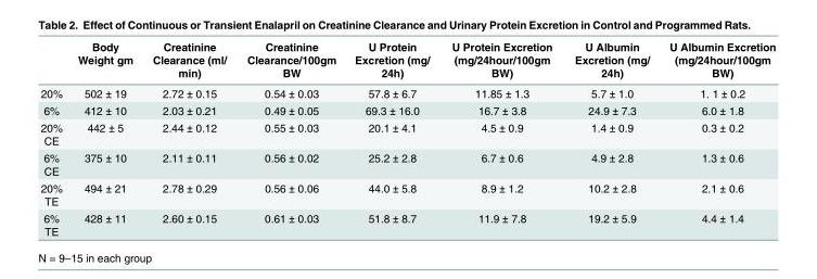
<table><thead><tr><td></td><td>Body Weight gm</td><td>Creatinine Clearance (ml/ min)</td><td>Creatinine Clearance/100gm BW</td><td>U Protein Excretion (mg/ 24h)</td><td>U Protein Excretion (mg/24hour/100gm BW)</td><td>U Albumin Excretion (mg/ 24h)</td><td>U Albumin Excretion (mg/24hour/100gm BW)</td></tr></thead><tbody><tr><td>20%</td><td>502 ± 19</td><td>2.72 ± 0.15</td><td>0.54 ± 0.03</td><td>57.8 ± 6.7</td><td>11.85 ± 1.3</td><td>5.7 ± 1.0</td><td>1. 1 ± 0.2</td></tr><tr><td>6%</td><td>412 ± 10</td><td>2.03 ± 0.21</td><td>0.49 ± 0.05</td><td>69.3 ± 16.0</td><td>16.7 ± 3.8</td><td>24.9 ± 7.3</td><td>6.0 ± 1.8</td></tr><tr><td>20% CE</td><td>442 ± 5</td><td>2.44 ± 0.12</td><td>0.55 ± 0.03</td><td>20.1 ± 4.1</td><td>4.5 ± 0.9</td><td>1.4 ± 0.9</td><td>0.3 ± 0.2</td></tr><tr><td>6% CE</td><td>375 ± 10</td><td>2.11 ± 0.11</td><td>0.56 ± 0.02</td><td>25.2 ± 2.8</td><td>6.7 ± 0.6</td><td>4.9 ± 2.8</td><td>1.3 ± 0.6</td></tr><tr><td>20% TE</td><td>494 ± 21</td><td>2.78 ± 0.29</td><td>0.56 ± 0.06</td><td>44.0 ± 5.8</td><td>8.9 ± 1.2</td><td>10.2 ± 2.8</td><td>2.1 ± 0.6</td></tr><tr><td>6% TE</td><td>428 ± 11</td><td>2.60 ± 0.15</td><td>0.61 ± 0.03</td><td>51.8 ± 8.7</td><td>11.9 ± 7.8</td><td>19.2 ± 5.9</td><td>4.4 ± 1.4</td></tr></tbody></table>